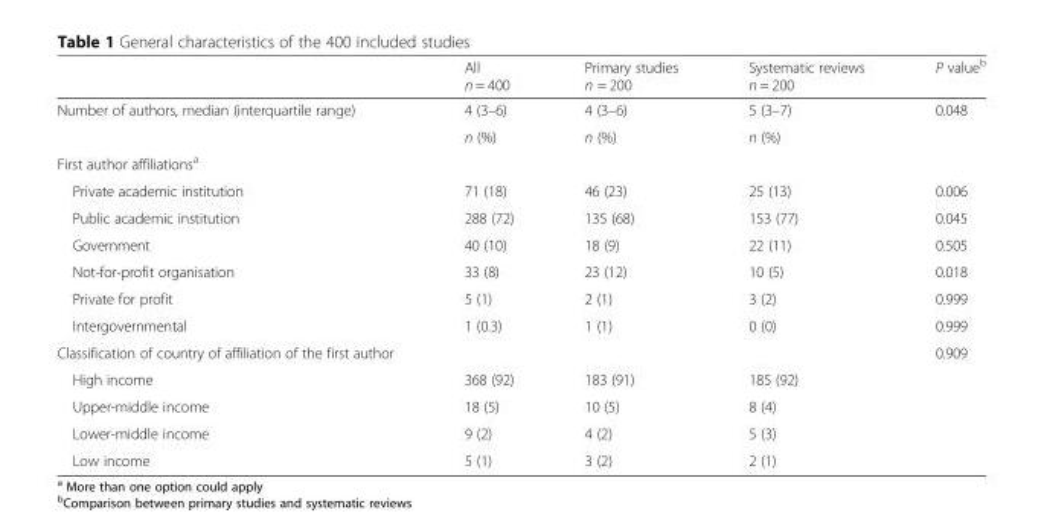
<table><thead><tr><td></td><td>All n = 400</td><td>Primary studies n = 200</td><td>Systematic reviews n = 200</td><td>P value<sup>b</sup></td></tr></thead><tbody><tr><td rowspan="2">Number of authors, median (interquartile range)</td><td>4 (3–6)</td><td>4 (3–6)</td><td>5 (3–7)</td><td>0.048</td></tr><tr><td>n (%)</td><td>n (%)</td><td>n (%)</td><td></td></tr><tr><td colspan="5">First author affiliations<sup>a</sup></td></tr><tr><td>Private academic institution</td><td>71 (18)</td><td>46 (23)</td><td>25 (13)</td><td>0.006</td></tr><tr><td>Public academic institution</td><td>288 (72)</td><td>135 (68)</td><td>153 (77)</td><td>0.045</td></tr><tr><td>Government</td><td>40 (10)</td><td>18 (9)</td><td>22 (11)</td><td>0.505</td></tr><tr><td>Not-for-profit organisation</td><td>33 (8)</td><td>23 (12)</td><td>10 (5)</td><td>0.018</td></tr><tr><td>Private for profit</td><td>5 (1)</td><td>2 (1)</td><td>3 (2)</td><td>0.999</td></tr><tr><td>Intergovernmental</td><td>1 (0.3)</td><td>1 (1)</td><td>0 (0)</td><td>0.999</td></tr><tr><td colspan="4">Classification of country of affiliation of the first author</td><td rowspan="5">0.909</td></tr><tr><td>High income</td><td>368 (92)</td><td>183 (91)</td><td>185 (92)</td></tr><tr><td>Upper-middle income</td><td>18 (5)</td><td>10 (5)</td><td>8 (4)</td></tr><tr><td>Lower-middle income</td><td>9 (2)</td><td>4 (2)</td><td>5 (3)</td></tr><tr><td>Low income</td><td>5 (1)</td><td>3 (2)</td><td>2 (1)</td></tr></tbody></table>